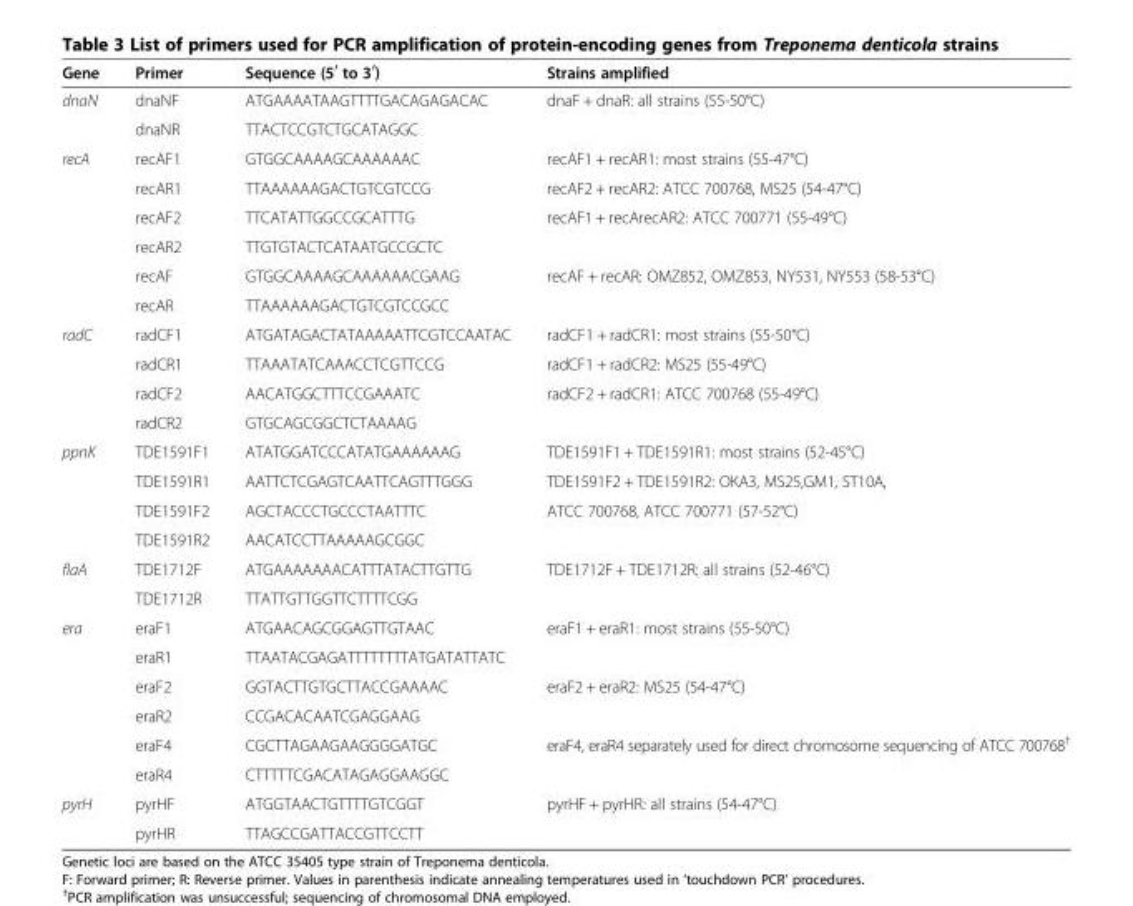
<table><thead><tr><td>Gene</td><td>Primer</td><td>Sequence (5<sup>′</sup> to 3<sup>′</sup>)</td><td>Strains amplified</td></tr></thead><tbody><tr><td rowspan="2">dnaN</td><td>dnaNF</td><td>ATGAAAATAAGTTTTGACAGAGACAC</td><td>dnaF + dnaR: all strains (55-50°C)</td></tr><tr><td>dnaNR</td><td>TTACTCCGTCTGCATAGGC</td><td></td></tr><tr><td rowspan="6">recA</td><td>recAF1</td><td>GTGGCAAAAGCAAAAAAC</td><td>recAF1 + recAR1: most strains (55-47°C)</td></tr><tr><td>recAR1</td><td>TTAAAAAAGACTGTCGTCCG</td><td>recAF2 + recAR2: ATCC 700768, MS25 (54-47°C)</td></tr><tr><td>recAF2</td><td>TTCATATTGGCCGCATTTG</td><td>recAF1 + recArecAR2: ATCC 700771 (55-49°C)</td></tr><tr><td>recAR2</td><td>TTGTGTACTCATAATGCCGCTC</td><td></td></tr><tr><td>recAF</td><td>GTGGCAAAAGCAAAAAACGAAG</td><td>recAF + recAR: OMZ852, OMZ853, NY531, NY553 (58-53°C)</td></tr><tr><td>recAR</td><td>TTAAAAAAGACTGTCGTCCGCC</td><td></td></tr><tr><td rowspan="4">radC</td><td>radCF1</td><td>ATGATAGACTATAAAAATTCGTCCAATAC</td><td>radCF1 + radCR1: most strains (55-50°C)</td></tr><tr><td>radCR1</td><td>TTAAATATCAAACCTCGTTCCG</td><td>radCF1 + radCR2: MS25 (55-49°C)</td></tr><tr><td>radCF2</td><td>AACATGGCTTTCCGAAATC</td><td>radCF2 + radCR1: ATCC 700768 (55-49°C)</td></tr><tr><td>radCR2</td><td>GTGCAGCGGCTCTAAAAG</td><td></td></tr><tr><td rowspan="4">ppnK</td><td>TDE1591F1</td><td>ATATGGATCCCATATGAAAAAAG</td><td>TDE1591F1 + TDE1591R1: most strains (52-45°C)</td></tr><tr><td>TDE1591R1</td><td>AATTCTCGAGTCAATTCAGTTTGGG</td><td>TDE1591F2 + TDE1591R2: OKA3, MS25,GM1, ST10A,</td></tr><tr><td>TDE1591F2</td><td>AGCTACCCTGCCCTAATTTC</td><td>ATCC 700768, ATCC 700771 (57-52°C)</td></tr><tr><td>TDE1591R2</td><td>AACATCCTTAAAAAGCGGC</td><td></td></tr><tr><td rowspan="2">flaA</td><td>TDE1712F</td><td>ATGAAAAAAACATTTATACTTGTTG</td><td>TDE1712F + TDE1712R: all strains (52-46°C)</td></tr><tr><td>TDE1712R</td><td>TTATTGTTGGTTCTTTTCGG</td><td></td></tr><tr><td rowspan="6">era</td><td>eraF1</td><td>ATGAACAGCGGAGTTGTAAC</td><td>eraF1 + eraR1: most strains (55-50°C)</td></tr><tr><td>eraR1</td><td>TTAATACGAGATTTTTTTTATGATATTATC</td><td></td></tr><tr><td>eraF2</td><td>GGTACTTGTGCTTACCGAAAAC</td><td>eraF2 + eraR2: MS25 (54-47°C)</td></tr><tr><td>eraR2</td><td>CCGACACAATCGAGGAAG</td><td></td></tr><tr><td>eraF4</td><td>CGCTTAGAAGAAGGGGATGC</td><td>eraF4, eraR4 separately used for direct chromosome sequencing of ATCC 700768<sup>†</sup></td></tr><tr><td>eraR4</td><td>CTTTTTCGACATAGAGGAAGGC</td><td></td></tr><tr><td rowspan="2">pyrH</td><td>pyrHF</td><td>ATGGTAACTGTTTTGTCGGT</td><td>pyrHF + pyrHR: all strains (54-47°C)</td></tr><tr><td>pyrHR</td><td>TTAGCCGATTACCGTTCCTT</td><td></td></tr></tbody></table>